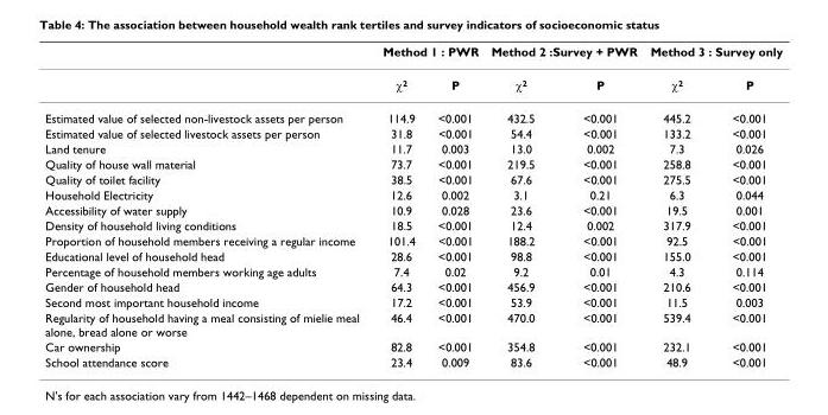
<table><thead><tr><td rowspan="2"></td><td colspan="2">Method 1 : PWR</td><td colspan="2">Method 2 :Survey + PWR</td><td colspan="2">Method 3 : Survey only</td></tr><tr><td>χ<sup>2</sup></td><td>P</td><td>χ<sup>2</sup></td><td>P</td><td>χ<sup>2</sup></td><td>P</td></tr></thead><tbody><tr><td>Estimated value of selected non-livestock assets per person</td><td>114.9</td><td>&lt;0.001</td><td>432.5</td><td>&lt;0.001</td><td>445.2</td><td>&lt;0.001</td></tr><tr><td>Estimated value of selected livestock assets per person</td><td>31.8</td><td>&lt;0.001</td><td>54.4</td><td>&lt;0.001</td><td>133.2</td><td>&lt;0.001</td></tr><tr><td>Land tenure</td><td>11.7</td><td>0.003</td><td>13.0</td><td>0.002</td><td>7.3</td><td>0.026</td></tr><tr><td>Quality of house wall material</td><td>73.7</td><td>&lt;0.001</td><td>219.5</td><td>&lt;0.001</td><td>258.8</td><td>&lt;0.001</td></tr><tr><td>Quality of toilet facility</td><td>38.5</td><td>&lt;0.001</td><td>67.6</td><td>&lt;0.001</td><td>275.5</td><td>&lt;0.001</td></tr><tr><td>Household Electricity</td><td>12.6</td><td>0.002</td><td>3.1</td><td>0.21</td><td>6.3</td><td>0.044</td></tr><tr><td>Accessibility of water supply</td><td>10.9</td><td>0.028</td><td>23.6</td><td>&lt;0.001</td><td>19.5</td><td>0.001</td></tr><tr><td>Density of household living conditions</td><td>18.5</td><td>&lt;0.001</td><td>12.4</td><td>0.002</td><td>317.9</td><td>&lt;0.001</td></tr><tr><td>Proportion of household members receiving a regular income</td><td>101.4</td><td>&lt;0.001</td><td>188.2</td><td>&lt;0.001</td><td>92.5</td><td>&lt;0.001</td></tr><tr><td>Educational level of household head</td><td>28.6</td><td>&lt;0.001</td><td>98.8</td><td>&lt;0.001</td><td>155.0</td><td>&lt;0.001</td></tr><tr><td>Percentage of household members working age adults</td><td>7.4</td><td>0.02</td><td>9.2</td><td>0.01</td><td>4.3</td><td>0.114</td></tr><tr><td>Gender of household head</td><td>64.3</td><td>&lt;0.001</td><td>456.9</td><td>&lt;0.001</td><td>210.6</td><td>&lt;0.001</td></tr><tr><td>Second most important household income</td><td>17.2</td><td>&lt;0.001</td><td>53.9</td><td>&lt;0.001</td><td>11.5</td><td>0.003</td></tr><tr><td>Regularity of household having a meal consisting of mielie meal alone, bread alone or worse</td><td>46.4</td><td>&lt;0.001</td><td>470.0</td><td>&lt;0.001</td><td>539.4</td><td>&lt;0.001</td></tr><tr><td>Car ownership</td><td>82.8</td><td>&lt;0.001</td><td>354.8</td><td>&lt;0.001</td><td>232.1</td><td>&lt;0.001</td></tr><tr><td>School attendance score</td><td>23.4</td><td>0.009</td><td>83.6</td><td>&lt;0.001</td><td>48.9</td><td>&lt;0.001</td></tr></tbody></table>